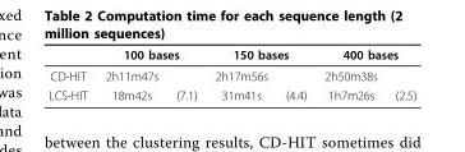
<table><thead><tr><td rowspan="2">CD-HIT</td><td colspan="2">100 bases</td><td colspan="2">150 bases</td><td colspan="2">400 bases</td></tr><tr><td>2h11m47s</td><td></td><td>2h17m56s</td><td></td><td>2h50m38s</td><td></td></tr></thead><tbody><tr><td>LCS-HIT</td><td>18m42s</td><td>(7.1)</td><td>31m41s</td><td>(4.4)</td><td>1h7m26s</td><td>(2.5)</td></tr></tbody></table>